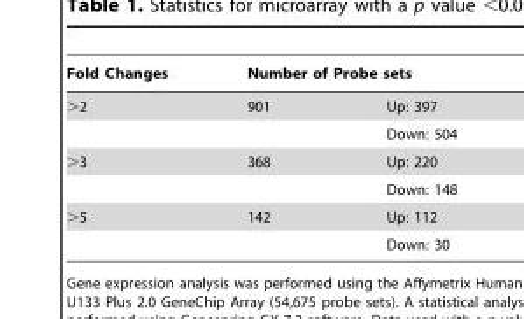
<table><thead><tr><td rowspan="2">Fold Changes &gt;2</td><td colspan="2">Number of Probe sets</td></tr><tr><td>901</td><td>Up: 397</td></tr></thead><tbody><tr><td></td><td></td><td>Down: 504</td></tr><tr><td rowspan="2">&gt;3</td><td>368</td><td>Up: 220</td></tr><tr><td></td><td>Down: 148</td></tr><tr><td rowspan="2">&gt;5</td><td>142</td><td>Up: 112</td></tr><tr><td></td><td>Down: 30</td></tr></tbody></table>